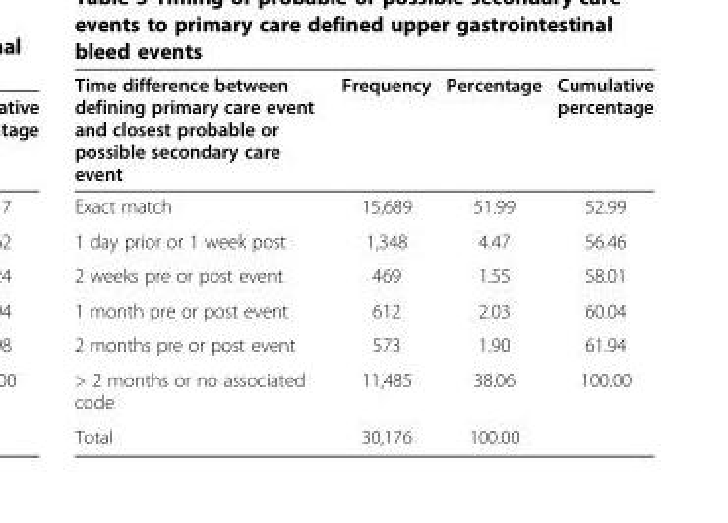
<table><thead><tr><td>Time difference between defining primary care event and closest probable or possible secondary care event</td><td>Frequency</td><td>Percentage</td><td>Cumulative percentage</td></tr></thead><tbody><tr><td>Exact match</td><td>15,689</td><td>51.99</td><td>52.99</td></tr><tr><td>1 day prior or 1 week post</td><td>1,348</td><td>4.47</td><td>56.46</td></tr><tr><td>2 weeks pre or post event</td><td>469</td><td>1.55</td><td>58.01</td></tr><tr><td>1 month pre or post event</td><td>612</td><td>2.03</td><td>60.04</td></tr><tr><td>2 months pre or post event</td><td>573</td><td>1.90</td><td>61.94</td></tr><tr><td>&gt; 2 months or no associated code</td><td>11,485</td><td>38.06</td><td>100.00</td></tr><tr><td>Total</td><td>30,176</td><td>100.00</td><td></td></tr></tbody></table>